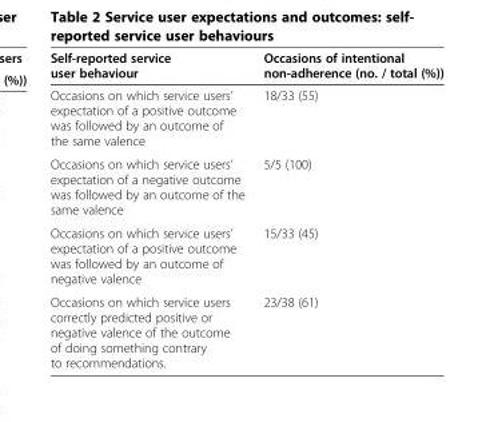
<table><thead><tr><td>Self-reported service user behaviour</td><td>Occasions of intentional non-adherence (no. / total (%))</td></tr></thead><tbody><tr><td>Occasions on which service users’ expectation of a positive outcome was followed by an outcome of the same valence</td><td>18/33 (55)</td></tr><tr><td>Occasions on which service users’ expectation of a negative outcome was followed by an outcome of the same valence</td><td>5/5 (100)</td></tr><tr><td>Occasions on which service users’ expectation of a positive outcome was followed by an outcome of negative valence</td><td>15/33 (45)</td></tr><tr><td>Occasions on which service users correctly predicted positive or negative valence of the outcome of doing something contrary to recommendations.</td><td>23/38 (61)</td></tr></tbody></table>